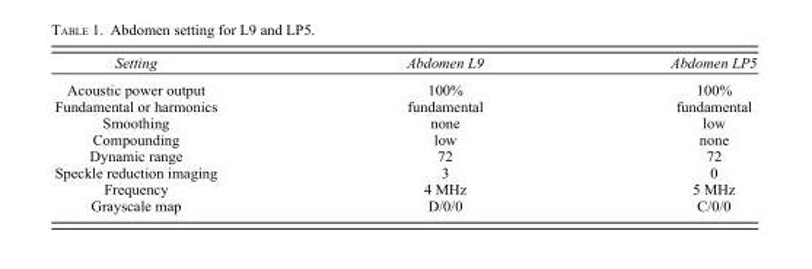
<table><thead><tr><td>Setting</td><td>Abdomen L9</td><td>Abdomen LP5</td></tr></thead><tbody><tr><td>Acoustic power output</td><td>100%</td><td>100%</td></tr><tr><td>Fundamental or harmonics</td><td>fundamental</td><td>fundamental</td></tr><tr><td>Smoothing</td><td>none</td><td>low</td></tr><tr><td>Compounding</td><td>low</td><td>none</td></tr><tr><td>Dynamic range</td><td>72</td><td>72</td></tr><tr><td>Speckle reduction imaging</td><td>3</td><td>0</td></tr><tr><td>Frequency</td><td>4 MHz</td><td>5 MHz</td></tr><tr><td>Grayscale map</td><td>D/0/0</td><td>C/0/0</td></tr></tbody></table>